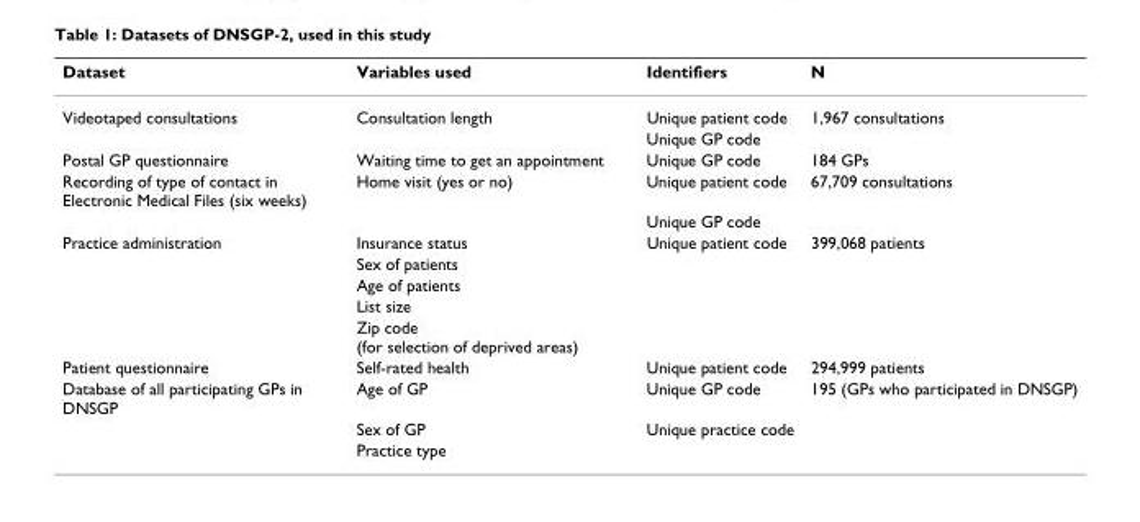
<table><thead><tr><td>Dataset</td><td>Variables used</td><td>Identifiers</td><td>N</td></tr></thead><tbody><tr><td rowspan="2">Videotaped consultations</td><td>Consultation length</td><td>Unique patient code</td><td>1,967 consultations</td></tr><tr><td></td><td>Unique GP code</td><td></td></tr><tr><td>Postal GP questionnaire</td><td>Waiting time to get an appointment</td><td>Unique GP code</td><td>184 GPs</td></tr><tr><td rowspan="2">Recording of type of contact in Electronic Medical Files (six weeks)</td><td>Home visit (yes or no)</td><td>Unique patient code</td><td>67,709 consultations</td></tr><tr><td></td><td>Unique GP code</td><td></td></tr><tr><td rowspan="5">Practice administration</td><td>Insurance status</td><td>Unique patient code</td><td>399,068 patients</td></tr><tr><td>Sex of patients</td><td></td><td></td></tr><tr><td>Age of patients</td><td></td><td></td></tr><tr><td>List size</td><td></td><td></td></tr><tr><td>Zip code (for selection of deprived areas)</td><td></td><td></td></tr><tr><td>Patient questionnaire</td><td>Self-rated health</td><td>Unique patient code</td><td>294,999 patients</td></tr><tr><td rowspan="3">Database of all participating GPs in DNSGP</td><td>Age of GP</td><td>Unique GP code</td><td>195 (GPs who participated in DNSGP)</td></tr><tr><td>Sex of GP</td><td>Unique practice code</td><td></td></tr><tr><td>Practice type</td><td></td><td></td></tr></tbody></table>